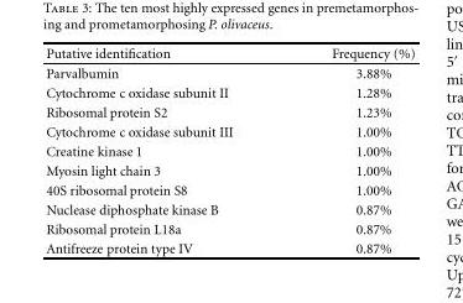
<table><thead><tr><td>Putative identification</td><td>Frequency (%)</td></tr></thead><tbody><tr><td>Parvalbumin</td><td>3.88%</td></tr><tr><td>Cytochrome c oxidase subunit II</td><td>1.28%</td></tr><tr><td>Ribosomal protein S2</td><td>1.23%</td></tr><tr><td>Cytochrome c oxidase subunit III</td><td>1.00%</td></tr><tr><td>Creatine kinase 1</td><td>1.00%</td></tr><tr><td>Myosin light chain 3</td><td>1.00%</td></tr><tr><td>40S ribosomal protein S8</td><td>1.00%</td></tr><tr><td>Nuclease diphosphate kinase B</td><td>0.87%</td></tr><tr><td>Ribosomal protein L18a</td><td>0.87%</td></tr><tr><td>Antifreeze protein type IV</td><td>0.87%</td></tr></tbody></table>